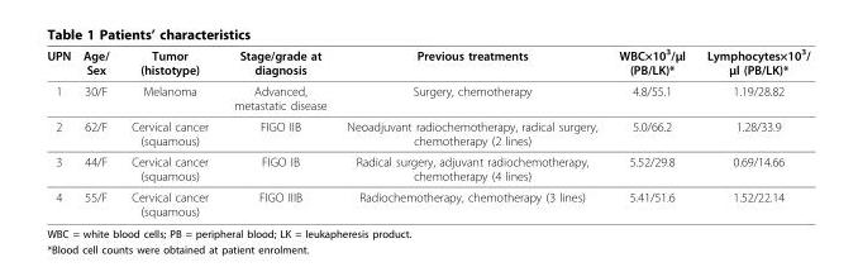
<table><thead><tr><td>UPN</td><td>Age/ Sex</td><td>Tumor (histotype)</td><td>Stage/grade at diagnosis</td><td>Previous treatments</td><td>WBC×10<sup>3</sup>/μl (PB/LK)*</td><td>Lymphocytes×10<sup>3</sup>/ μl (PB/LK)*</td></tr></thead><tbody><tr><td>1</td><td>30/F</td><td>Melanoma</td><td>Advanced, metastatic disease</td><td>Surgery, chemotherapy</td><td>4.8/55.1</td><td>1.19/28.82</td></tr><tr><td>2</td><td>62/F</td><td>Cervical cancer (squamous)</td><td>FIGO IIB</td><td>Neoadjuvant radiochemotherapy, radical surgery, chemotherapy (2 lines)</td><td>5.0/66.2</td><td>1.28/33.9</td></tr><tr><td>3</td><td>44/F</td><td>Cervical cancer (squamous)</td><td>FIGO IB</td><td>Radical surgery, adjuvant radiochemotherapy, chemotherapy (4 lines)</td><td>5.52/29.8</td><td>0.69/14.66</td></tr><tr><td>4</td><td>55/F</td><td>Cervical cancer (squamous)</td><td>FIGO IIIB</td><td>Radiochemotherapy, chemotherapy (3 lines)</td><td>5.41/51.6</td><td>1.52/22.14</td></tr></tbody></table>